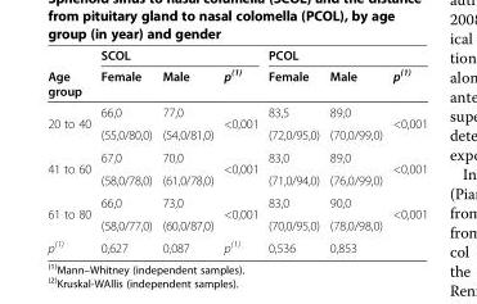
<table><thead><tr><td rowspan="2">Age group</td><td colspan="3">SCOL</td><td colspan="3">PCOL</td></tr><tr><td>Female</td><td>Male</td><td>p<sup>(1)</sup></td><td>Female</td><td>Male</td><td>p<sup>(1)</sup></td></tr></thead><tbody><tr><td rowspan="2">20 to 40</td><td>66,0</td><td>77,0</td><td rowspan="2">&lt;0,001</td><td>83,5</td><td>89,0</td><td rowspan="2">&lt;0,001</td></tr><tr><td>(55,0/80,0)</td><td>(54,0/81,0)</td><td>(72,0/95,0)</td><td>(70,0/99,0)</td></tr><tr><td rowspan="2">41 to 60</td><td>67,0</td><td>70,0</td><td rowspan="2">&lt;0,001</td><td>83,0</td><td>89,0</td><td rowspan="2">&lt;0,001</td></tr><tr><td>(58,0/78,0)</td><td>(61,0/78,0)</td><td>(71,0/94,0)</td><td>(76,0/99,0)</td></tr><tr><td rowspan="2">61 to 80</td><td>66,0</td><td>73,0</td><td rowspan="2">&lt;0,001</td><td>83,0</td><td>90,0</td><td rowspan="2">&lt;0,001</td></tr><tr><td>(58,0/77,0)</td><td>(60,0/87,0)</td><td>(70,0/95,0)</td><td>(78,0/98,0)</td></tr><tr><td>p<sup>(1)</sup></td><td>0,627</td><td>0,087</td><td>p<sup>(1)</sup></td><td>0,536</td><td>0,853</td><td></td></tr></tbody></table>